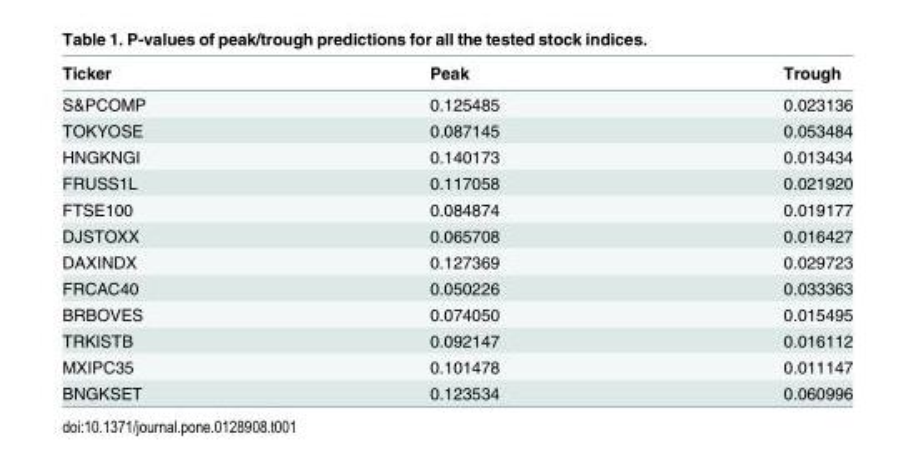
<table><thead><tr><td>Ticker</td><td>Peak</td><td>Trough</td></tr></thead><tbody><tr><td>S&amp;PCOMP</td><td>0.125485</td><td>0.023136</td></tr><tr><td>TOKYOSE</td><td>0.087145</td><td>0.053484</td></tr><tr><td>HNGKNGI</td><td>0.140173</td><td>0.013434</td></tr><tr><td>FRUSS1L</td><td>0.117058</td><td>0.021920</td></tr><tr><td>FTSE100</td><td>0.084874</td><td>0.019177</td></tr><tr><td>DJSTOXX</td><td>0.065708</td><td>0.016427</td></tr><tr><td>DAXINDX</td><td>0.127369</td><td>0.029723</td></tr><tr><td>FRCAC40</td><td>0.050226</td><td>0.033363</td></tr><tr><td>BRBOVES</td><td>0.074050</td><td>0.015495</td></tr><tr><td>TRKISTB</td><td>0.092147</td><td>0.016112</td></tr><tr><td>MXIPC35</td><td>0.101478</td><td>0.011147</td></tr><tr><td>BNGKSET</td><td>0.123534</td><td>0.060996</td></tr></tbody></table>